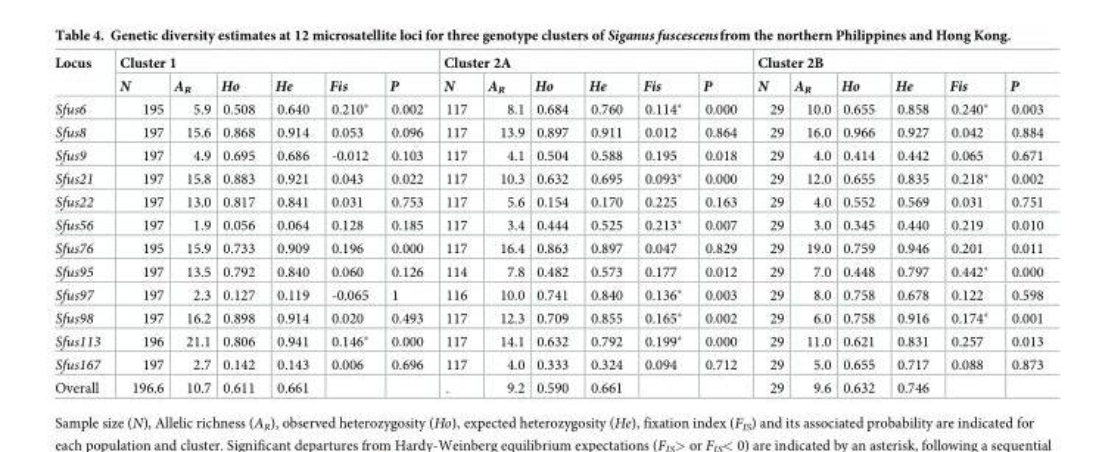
<table><thead><tr><td rowspan="2">Locus</td><td colspan="6">Cluster 1</td><td colspan="6">Cluster 2A</td><td colspan="6">Cluster 2B</td></tr><tr><td>N</td><td>A<sub>R</sub></td><td>Ho</td><td>He</td><td>Fis</td><td>P</td><td>N</td><td>A<sub>R</sub></td><td>Ho</td><td>He</td><td>Fis</td><td>P</td><td>N</td><td>A<sub>R</sub></td><td>Ho</td><td>He</td><td>Fis</td><td>P</td></tr></thead><tbody><tr><td>Sfus6</td><td>195</td><td>5.9</td><td>0.508</td><td>0.640</td><td>0.210*</td><td>0.002</td><td>117</td><td>8.1</td><td>0.684</td><td>0.760</td><td>0.114*</td><td>0.000</td><td>29</td><td>10.0</td><td>0.655</td><td>0.858</td><td>0.240*</td><td>0.003</td></tr><tr><td>Sfus8</td><td>197</td><td>15.6</td><td>0.868</td><td>0.914</td><td>0.053</td><td>0.096</td><td>117</td><td>13.9</td><td>0.897</td><td>0.911</td><td>0.012</td><td>0.864</td><td>29</td><td>16.0</td><td>0.966</td><td>0.927</td><td>0.042</td><td>0.884</td></tr><tr><td>Sfus9</td><td>197</td><td>4.9</td><td>0.695</td><td>0.686</td><td>-0.012</td><td>0.103</td><td>117</td><td>4.1</td><td>0.504</td><td>0.588</td><td>0.195</td><td>0.018</td><td>29</td><td>4.0</td><td>0.414</td><td>0.442</td><td>0.065</td><td>0.671</td></tr><tr><td>Sfus21</td><td>197</td><td>15.8</td><td>0.883</td><td>0.921</td><td>0.043</td><td>0.022</td><td>117</td><td>10.3</td><td>0.632</td><td>0.695</td><td>0.093*</td><td>0.000</td><td>29</td><td>12.0</td><td>0.655</td><td>0.835</td><td>0.218*</td><td>0.002</td></tr><tr><td>Sfus22</td><td>197</td><td>13.0</td><td>0.817</td><td>0.841</td><td>0.031</td><td>0.753</td><td>117</td><td>5.6</td><td>0.154</td><td>0.170</td><td>0.225</td><td>0.163</td><td>29</td><td>4.0</td><td>0.552</td><td>0.569</td><td>0.031</td><td>0.751</td></tr><tr><td>Sfus56</td><td>197</td><td>1.9</td><td>0.056</td><td>0.064</td><td>0.128</td><td>0.185</td><td>117</td><td>3.4</td><td>0.444</td><td>0.525</td><td>0.213*</td><td>0.007</td><td>29</td><td>3.0</td><td>0.345</td><td>0.440</td><td>0.219</td><td>0.010</td></tr><tr><td>Sfus76</td><td>195</td><td>15.9</td><td>0.733</td><td>0.909</td><td>0.196</td><td>0.000</td><td>117</td><td>16.4</td><td>0.863</td><td>0.897</td><td>0.047</td><td>0.829</td><td>29</td><td>19.0</td><td>0.759</td><td>0.946</td><td>0.201</td><td>0.011</td></tr><tr><td>Sfus95</td><td>197</td><td>13.5</td><td>0.792</td><td>0.840</td><td>0.060</td><td>0.126</td><td>114</td><td>7.8</td><td>0.482</td><td>0.573</td><td>0.177</td><td>0.012</td><td>29</td><td>7.0</td><td>0.448</td><td>0.797</td><td>0.442*</td><td>0.000</td></tr><tr><td>Sfus97</td><td>197</td><td>2.3</td><td>0.127</td><td>0.119</td><td>-0.065</td><td>1</td><td>116</td><td>10.0</td><td>0.741</td><td>0.840</td><td>0.136*</td><td>0.003</td><td>29</td><td>8.0</td><td>0.758</td><td>0.678</td><td>0.122</td><td>0.598</td></tr><tr><td>Sfus98</td><td>197</td><td>16.2</td><td>0.898</td><td>0.914</td><td>0.020</td><td>0.493</td><td>117</td><td>12.3</td><td>0.709</td><td>0.855</td><td>0.165*</td><td>0.002</td><td>29</td><td>6.0</td><td>0.758</td><td>0.916</td><td>0.174*</td><td>0.001</td></tr><tr><td>Sfus113</td><td>196</td><td>21.1</td><td>0.806</td><td>0.941</td><td>0.146*</td><td>0.000</td><td>117</td><td>14.1</td><td>0.632</td><td>0.792</td><td>0.199*</td><td>0.000</td><td>29</td><td>11.0</td><td>0.621</td><td>0.831</td><td>0.257</td><td>0.013</td></tr><tr><td>Sfus167</td><td>197</td><td>2.7</td><td>0.142</td><td>0.143</td><td>0.006</td><td>0.696</td><td>117</td><td>4.0</td><td>0.333</td><td>0.324</td><td>0.094</td><td>0.712</td><td>29</td><td>5.0</td><td>0.655</td><td>0.717</td><td>0.088</td><td>0.873</td></tr><tr><td>Overall</td><td>196.6</td><td>10.7</td><td>0.611</td><td>0.661</td><td></td><td></td><td>.</td><td>9.2</td><td>0.590</td><td>0.661</td><td></td><td></td><td>29</td><td>9.6</td><td>0.632</td><td>0.746</td><td></td><td></td></tr></tbody></table>